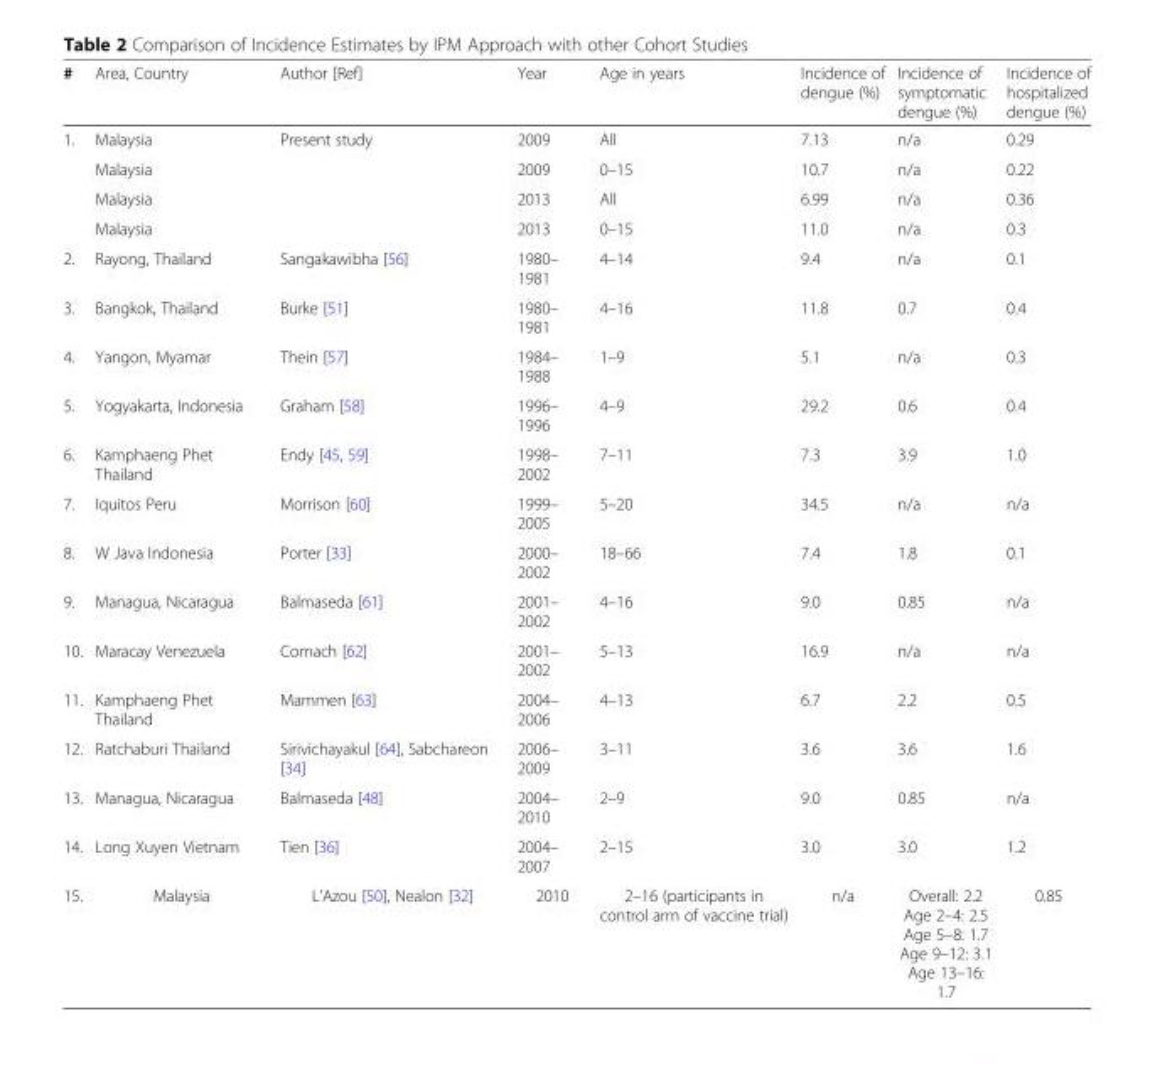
<table><thead><tr><td>#</td><td>Area, Country</td><td>Author [Ref]</td><td>Year</td><td>Age in years</td><td>Incidence of dengue (%)</td><td>Incidence of symptomatic dengue (%)</td><td>Incidence of hospitalized dengue (%)</td></tr></thead><tbody><tr><td rowspan="4">1.</td><td>Malaysia</td><td>Present study</td><td>2009</td><td>All</td><td>7.13</td><td>n/a</td><td>0.29</td></tr><tr><td>Malaysia</td><td></td><td>2009</td><td>0–15</td><td>10.7</td><td>n/a</td><td>0.22</td></tr><tr><td>Malaysia</td><td></td><td>2013</td><td>All</td><td>6.99</td><td>n/a</td><td>0.36</td></tr><tr><td>Malaysia</td><td></td><td>2013</td><td>0–15</td><td>11.0</td><td>n/a</td><td>0.3</td></tr><tr><td>2.</td><td>Rayong, Thailand</td><td>Sangakawibha [56]</td><td>1980– 1981</td><td>4–14</td><td>9.4</td><td>n/a</td><td>0.1</td></tr><tr><td>3.</td><td>Bangkok, Thailand</td><td>Burke [51]</td><td>1980– 1981</td><td>4–16</td><td>11.8</td><td>0.7</td><td>0.4</td></tr><tr><td>4.</td><td>Yangon, Myamar</td><td>Thein [57]</td><td>1984– 1988</td><td>1–9</td><td>5.1</td><td>n/a</td><td>0.3</td></tr><tr><td>5.</td><td>Yogyakarta, Indonesia</td><td>Graham [58]</td><td>1996– 1996</td><td>4–9</td><td>29.2</td><td>0.6</td><td>0.4</td></tr><tr><td>6.</td><td>Kamphaeng Phet Thailand</td><td>Endy [45, 59]</td><td>1998– 2002</td><td>7–11</td><td>7.3</td><td>3.9</td><td>1.0</td></tr><tr><td>7.</td><td>Iquitos Peru</td><td>Morrison [60]</td><td>1999– 2005</td><td>5–20</td><td>34.5</td><td>n/a</td><td>n/a</td></tr><tr><td>8.</td><td>W Java Indonesia</td><td>Porter [33]</td><td>2000– 2002</td><td>18–66</td><td>7.4</td><td>1.8</td><td>0.1</td></tr><tr><td>9.</td><td>Managua, Nicaragua</td><td>Balmaseda [61]</td><td>2001– 2002</td><td>4–16</td><td>9.0</td><td>0.85</td><td>n/a</td></tr><tr><td>10.</td><td>Maracay Venezuela</td><td>Comach [62]</td><td>2001– 2002</td><td>5–13</td><td>16.9</td><td>n/a</td><td>n/a</td></tr><tr><td>11.</td><td>Kamphaeng Phet Thailand</td><td>Mammen [63]</td><td>2004– 2006</td><td>4–13</td><td>6.7</td><td>2.2</td><td>0.5</td></tr><tr><td>12.</td><td>Ratchaburi Thailand</td><td>Sirivichayakul [64], Sabchareon [34]</td><td>2006– 2009</td><td>3–11</td><td>3.6</td><td>3.6</td><td>1.6</td></tr><tr><td>13.</td><td>Managua, Nicaragua</td><td>Balmaseda [48]</td><td>2004– 2010</td><td>2–9</td><td>9.0</td><td>0.85</td><td>n/a</td></tr><tr><td>14.</td><td>Long Xuyen Vietnam</td><td>Tien [36]</td><td>2004– 2007</td><td>2–15</td><td>3.0</td><td>3.0</td><td>1.2</td></tr><tr><td>15.</td><td>Malaysia</td><td>L’Azou [50], Nealon [32]</td><td>2010</td><td>2–16 (participants in control arm of vaccine trial)</td><td>n/a</td><td>Overall: 2.2 Age 2–4: 2.5 Age 5–8: 1.7 Age 9–12: 3.1 Age 13–16: 1.7</td><td>0.85</td></tr></tbody></table>